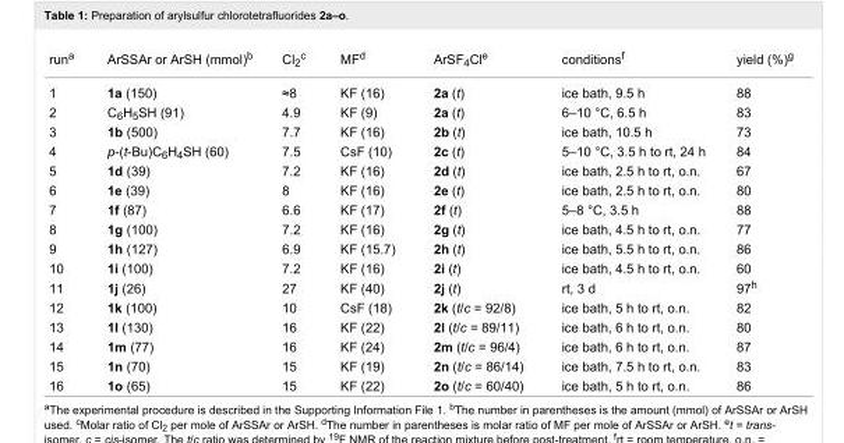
<table><tbody><tr><td>run<sup>a</sup></td><td>ArSSAr or ArSH (mmol)<sup>b</sup></td><td>Cl<sub>2</sub><sup>c</sup></td><td>MF<sup>d</sup></td><td>ArSF<sub>4</sub>Cl<sup>e</sup></td><td>conditions<sup>f</sup></td><td>yield (%)<sup>g</sup></td></tr><tr><td>1</td><td>1a (150)</td><td>≈8</td><td>KF (16)</td><td>2a (t)</td><td>ice bath, 9.5 h</td><td>88</td></tr><tr><td>2</td><td>C<sub>6</sub>H<sub>5</sub>SH (91)</td><td>4.9</td><td>KF (9)</td><td>2a (t)</td><td>6–10 °C, 6.5 h</td><td>83</td></tr><tr><td>3</td><td>1b (500)</td><td>7.7</td><td>KF (16)</td><td>2b (t)</td><td>ice bath, 10.5 h</td><td>73</td></tr><tr><td>4</td><td>p-(t-Bu)C<sub>6</sub>H<sub>4</sub>SH (60)</td><td>7.5</td><td>CsF (10)</td><td>2c (t)</td><td>5–10 °C, 3.5 h to rt, 24 h</td><td>84</td></tr><tr><td>5</td><td>1d (39)</td><td>7.2</td><td>KF (16)</td><td>2d (t)</td><td>ice bath, 2.5 h to rt, o.n.</td><td>67</td></tr><tr><td>6</td><td>1e (39)</td><td>8</td><td>KF (16)</td><td>2e (t)</td><td>ice bath, 2.5 h to rt, o.n.</td><td>80</td></tr><tr><td>7</td><td>1f (87)</td><td>6.6</td><td>KF (17)</td><td>2f (t)</td><td>5–8 °C, 3.5 h</td><td>88</td></tr><tr><td>8</td><td>1g (100)</td><td>7.2</td><td>KF (16)</td><td>2g (t)</td><td>ice bath, 4.5 h to rt, o.n.</td><td>77</td></tr><tr><td>9</td><td>1h (127)</td><td>6.9</td><td>KF (15.7)</td><td>2h (t)</td><td>ice bath, 5.5 h to rt, o.n.</td><td>86</td></tr><tr><td>10</td><td>1i (100)</td><td>7.2</td><td>KF (16)</td><td>2i (t)</td><td>ice bath, 4.5 h to rt, o.n.</td><td>60</td></tr><tr><td>11</td><td>1j (26)</td><td>27</td><td>KF (40)</td><td>2j (t)</td><td>rt, 3 d</td><td>97<sup>h</sup></td></tr><tr><td>12</td><td>1k (100)</td><td>10</td><td>CsF (18)</td><td>2k (t/c = 92/8)</td><td>ice bath, 5 h to rt, o.n.</td><td>82</td></tr><tr><td>13</td><td>1l (130)</td><td>16</td><td>KF (22)</td><td>2l (t/c = 89/11)</td><td>ice bath, 6 h to rt, o.n.</td><td>80</td></tr><tr><td>14</td><td>1m (77)</td><td>16</td><td>KF (24)</td><td>2m (t/c = 96/4)</td><td>ice bath, 6 h to rt, o.n.</td><td>87</td></tr><tr><td>15</td><td>1n (70)</td><td>15</td><td>KF (19)</td><td>2n (t/c = 86/14)</td><td>ice bath, 7.5 h to rt, o.n.</td><td>83</td></tr><tr><td>16</td><td>1o (65)</td><td>15</td><td>KF (22)</td><td>2o (t/c = 60/40)</td><td>ice bath, 5 h to rt, o.n.</td><td>86</td></tr></tbody></table>